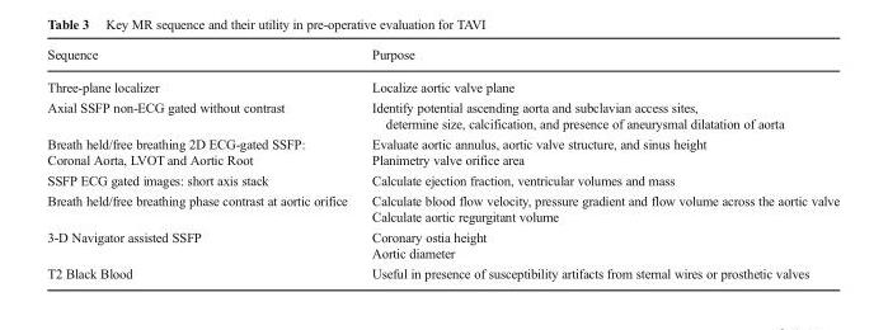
<table><thead><tr><td>Sequence</td><td>Purpose</td></tr></thead><tbody><tr><td>Three-plane localizer</td><td>Localize aortic valve plane</td></tr><tr><td>Axial SSFP non-ECG gated without contrast</td><td>Identify potential ascending aorta and subclavian access sites, determine size, calcification, and presence of aneurysmal dilatation of aorta</td></tr><tr><td>Breath held/free breathing 2D ECG-gated SSFP: Coronal Aorta, LVOT and Aortic Root</td><td>Evaluate aortic annulus, aortic valve structure, and sinus height Planimetry valve orifice area</td></tr><tr><td>SSFP ECG gated images: short axis stack</td><td>Calculate ejection fraction, ventricular volumes and mass</td></tr><tr><td>Breath held/free breathing phase contrast at aortic orifice</td><td>Calculate blood flow velocity, pressure gradient and flow volume across the aortic valve Calculate aortic regurgitant volume</td></tr><tr><td>3-D Navigator assisted SSFP</td><td>Coronary ostia height Aortic diameter</td></tr><tr><td>T2 Black Blood</td><td>Useful in presence of susceptibility artifacts from sternal wires or prosthetic valves</td></tr></tbody></table>